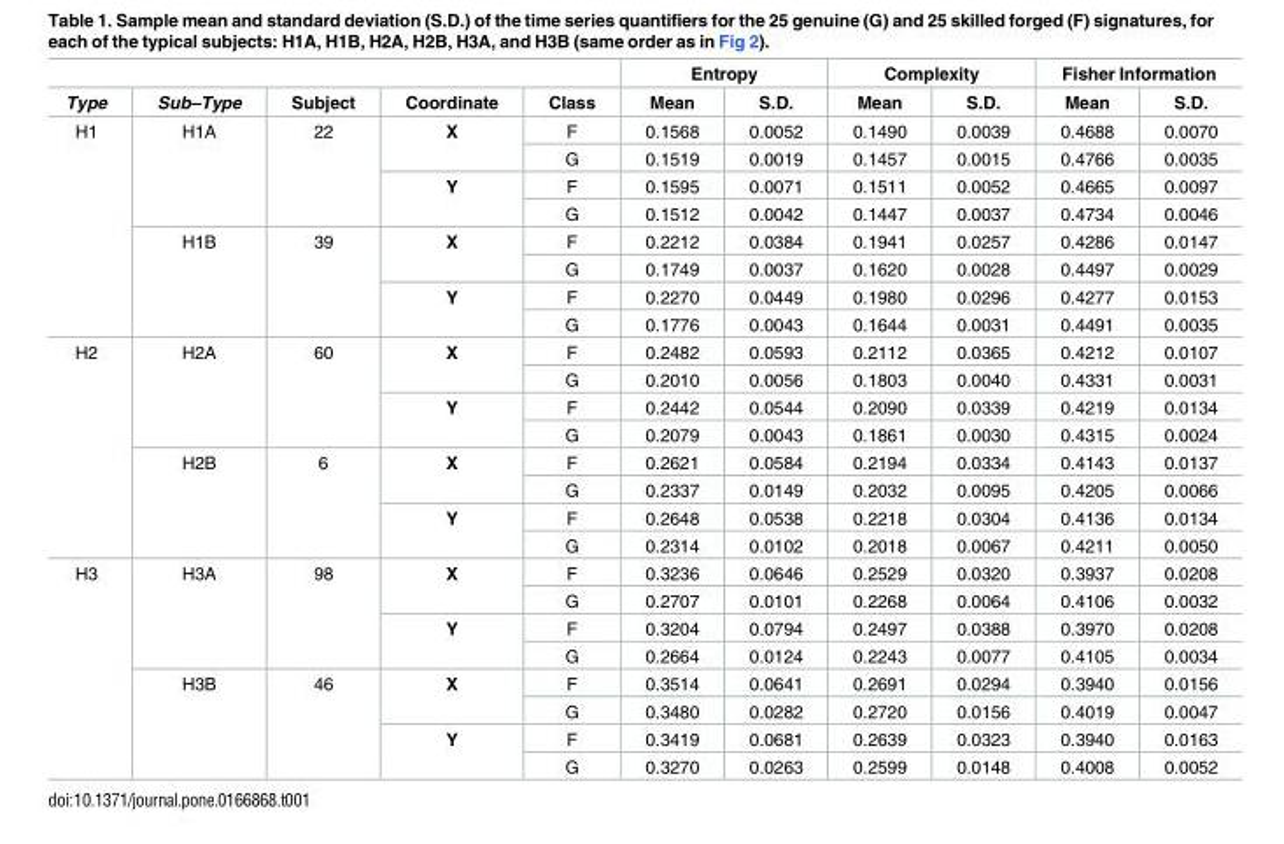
<table><thead><tr><td rowspan="2">Type</td><td rowspan="2">Sub–Type</td><td rowspan="2">Subject</td><td rowspan="2">Coordinate</td><td rowspan="2">Class</td><td colspan="2">Entropy</td><td colspan="2">Complexity</td><td colspan="2">Fisher Information</td></tr><tr><td>Mean</td><td>S.D.</td><td>Mean</td><td>S.D.</td><td>Mean</td><td>S.D.</td></tr></thead><tbody><tr><td rowspan="8">H1</td><td rowspan="4">H1A</td><td rowspan="4">22</td><td rowspan="2">X</td><td>F</td><td>0.1568</td><td>0.0052</td><td>0.1490</td><td>0.0039</td><td>0.4688</td><td>0.0070</td></tr><tr><td>G</td><td>0.1519</td><td>0.0019</td><td>0.1457</td><td>0.0015</td><td>0.4766</td><td>0.0035</td></tr><tr><td rowspan="2">Y</td><td>F</td><td>0.1595</td><td>0.0071</td><td>0.1511</td><td>0.0052</td><td>0.4665</td><td>0.0097</td></tr><tr><td>G</td><td>0.1512</td><td>0.0042</td><td>0.1447</td><td>0.0037</td><td>0.4734</td><td>0.0046</td></tr><tr><td rowspan="4">H1B</td><td rowspan="4">39</td><td rowspan="2">X</td><td>F</td><td>0.2212</td><td>0.0384</td><td>0.1941</td><td>0.0257</td><td>0.4286</td><td>0.0147</td></tr><tr><td>G</td><td>0.1749</td><td>0.0037</td><td>0.1620</td><td>0.0028</td><td>0.4497</td><td>0.0029</td></tr><tr><td rowspan="2">Y</td><td>F</td><td>0.2270</td><td>0.0449</td><td>0.1980</td><td>0.0296</td><td>0.4277</td><td>0.0153</td></tr><tr><td>G</td><td>0.1776</td><td>0.0043</td><td>0.1644</td><td>0.0031</td><td>0.4491</td><td>0.0035</td></tr><tr><td rowspan="8">H2</td><td rowspan="4">H2A</td><td rowspan="4">60</td><td rowspan="2">X</td><td>F</td><td>0.2482</td><td>0.0593</td><td>0.2112</td><td>0.0365</td><td>0.4212</td><td>0.0107</td></tr><tr><td>G</td><td>0.2010</td><td>0.0056</td><td>0.1803</td><td>0.0040</td><td>0.4331</td><td>0.0031</td></tr><tr><td rowspan="2">Y</td><td>F</td><td>0.2442</td><td>0.0544</td><td>0.2090</td><td>0.0339</td><td>0.4219</td><td>0.0134</td></tr><tr><td>G</td><td>0.2079</td><td>0.0043</td><td>0.1861</td><td>0.0030</td><td>0.4315</td><td>0.0024</td></tr><tr><td rowspan="4">H2B</td><td rowspan="4">6</td><td rowspan="2">X</td><td>F</td><td>0.2621</td><td>0.0584</td><td>0.2194</td><td>0.0334</td><td>0.4143</td><td>0.0137</td></tr><tr><td>G</td><td>0.2337</td><td>0.0149</td><td>0.2032</td><td>0.0095</td><td>0.4205</td><td>0.0066</td></tr><tr><td rowspan="2">Y</td><td>F</td><td>0.2648</td><td>0.0538</td><td>0.2218</td><td>0.0304</td><td>0.4136</td><td>0.0134</td></tr><tr><td>G</td><td>0.2314</td><td>0.0102</td><td>0.2018</td><td>0.0067</td><td>0.4211</td><td>0.0050</td></tr><tr><td rowspan="8">H3</td><td rowspan="4">H3A</td><td rowspan="4">98</td><td rowspan="2">X</td><td>F</td><td>0.3236</td><td>0.0646</td><td>0.2529</td><td>0.0320</td><td>0.3937</td><td>0.0208</td></tr><tr><td>G</td><td>0.2707</td><td>0.0101</td><td>0.2268</td><td>0.0064</td><td>0.4106</td><td>0.0032</td></tr><tr><td rowspan="2">Y</td><td>F</td><td>0.3204</td><td>0.0794</td><td>0.2497</td><td>0.0388</td><td>0.3970</td><td>0.0208</td></tr><tr><td>G</td><td>0.2664</td><td>0.0124</td><td>0.2243</td><td>0.0077</td><td>0.4105</td><td>0.0034</td></tr><tr><td rowspan="4">H3B</td><td rowspan="4">46</td><td rowspan="2">X</td><td>F</td><td>0.3514</td><td>0.0641</td><td>0.2691</td><td>0.0294</td><td>0.3940</td><td>0.0156</td></tr><tr><td>G</td><td>0.3480</td><td>0.0282</td><td>0.2720</td><td>0.0156</td><td>0.4019</td><td>0.0047</td></tr><tr><td rowspan="2">Y</td><td>F</td><td>0.3419</td><td>0.0681</td><td>0.2639</td><td>0.0323</td><td>0.3940</td><td>0.0163</td></tr><tr><td>G</td><td>0.3270</td><td>0.0263</td><td>0.2599</td><td>0.0148</td><td>0.4008</td><td>0.0052</td></tr></tbody></table>